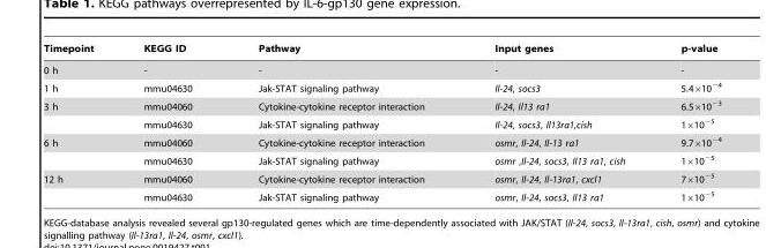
<table><thead><tr><td>Timepoint</td><td>KEGG ID</td><td>Pathway</td><td>Input genes</td><td>p-value</td></tr></thead><tbody><tr><td>0 h</td><td>-</td><td>-</td><td>-</td><td>-</td></tr><tr><td>1 h</td><td>mmu04630</td><td>Jak-STAT signaling pathway</td><td>Il-24, socs3</td><td>5.4×10<sup>−4</sup></td></tr><tr><td rowspan="2">3 h</td><td>mmu04060</td><td>Cytokine-cytokine receptor interaction</td><td>Il-24, Il13 ra1</td><td>6.5×10<sup>−3</sup></td></tr><tr><td>mmu04630</td><td>Jak-STAT signaling pathway</td><td>Il-24, socs3, Il13ra1,cish</td><td>1×10<sup>−5</sup></td></tr><tr><td rowspan="2">6 h</td><td>mmu04060</td><td>Cytokine-cytokine receptor interaction</td><td>osmr, Il-24, Il-13 ra1</td><td>9.7×10<sup>−4</sup></td></tr><tr><td>mmu04630</td><td>Jak-STAT signaling pathway</td><td>osmr ,Il-24, socs3, Il13 ra1, cish</td><td>1×10<sup>−5</sup></td></tr><tr><td rowspan="2">12 h</td><td>mmu04060</td><td>Cytokine-cytokine receptor interaction</td><td>osmr, Il-24, Il-13ra1, cxcl1</td><td>7×10<sup>−5</sup></td></tr><tr><td>mmu04630</td><td>Jak-STAT signaling pathway</td><td>osmr, Il-24, socs3, Il13 ra1</td><td>1×10<sup>−5</sup></td></tr></tbody></table>